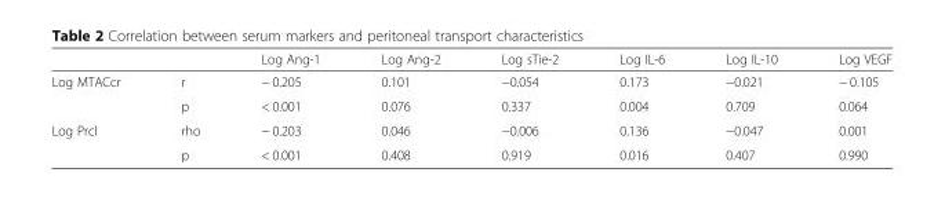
<table><thead><tr><td></td><td></td><td>Log Ang-1</td><td>Log Ang-2</td><td>Log sTie-2</td><td>Log IL-6</td><td>Log IL-10</td><td>Log VEGF</td></tr></thead><tbody><tr><td rowspan="2">Log MTACcr</td><td>r</td><td>− 0.205</td><td>0.101</td><td>−0.054</td><td>0.173</td><td>−0.021</td><td>− 0.105</td></tr><tr><td>p</td><td>&lt; 0.001</td><td>0.076</td><td>0.337</td><td>0.004</td><td>0.709</td><td>0.064</td></tr><tr><td rowspan="2">Log Prcl</td><td>rho</td><td>− 0.203</td><td>0.046</td><td>−0.006</td><td>0.136</td><td>−0.047</td><td>0.001</td></tr><tr><td>p</td><td>&lt; 0.001</td><td>0.408</td><td>0.919</td><td>0.016</td><td>0.407</td><td>0.990</td></tr></tbody></table>